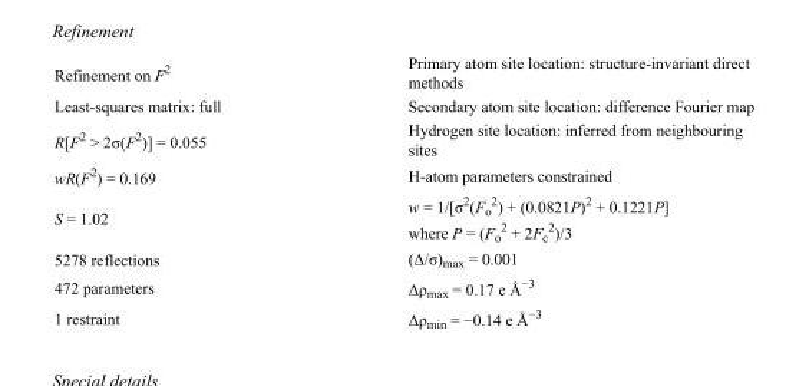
<table><tbody><tr><td>Refinement on F<sup>2</sup></td><td>Primary atom site location: structure-invariant direct methods</td></tr><tr><td>Least-squares matrix: full</td><td>Secondary atom site location: difference Fourier map</td></tr><tr><td>R[F<sup>2</sup> &gt; 2σ(F<sup>2</sup>)] = 0.055</td><td>Hydrogen site location: inferred from neighbouring sites</td></tr><tr><td>wR(F<sup>2</sup>) = 0.169</td><td>H-atom parameters constrained</td></tr><tr><td>S = 1.02</td><td>w = 1/[σ<sup>2</sup>(F<sub>o</sub> <sup>2</sup>) + (0.0821P)<sup>2</sup> + 0.1221P] where P = (F<sub>o</sub> <sup>2</sup> + 2F<sub>c</sub> <sup>2</sup>)/3</td></tr><tr><td>5278 reflections</td><td>(Δ/σ)<sub>max</sub> = 0.001</td></tr><tr><td>472 parameters</td><td>Δρ<sub>max</sub> = 0.17 e Å<sup>−3</sup></td></tr><tr><td>1 restraint</td><td>Δρ<sub>min</sub> = −0.14 e Å<sup>−3</sup></td></tr></tbody></table>